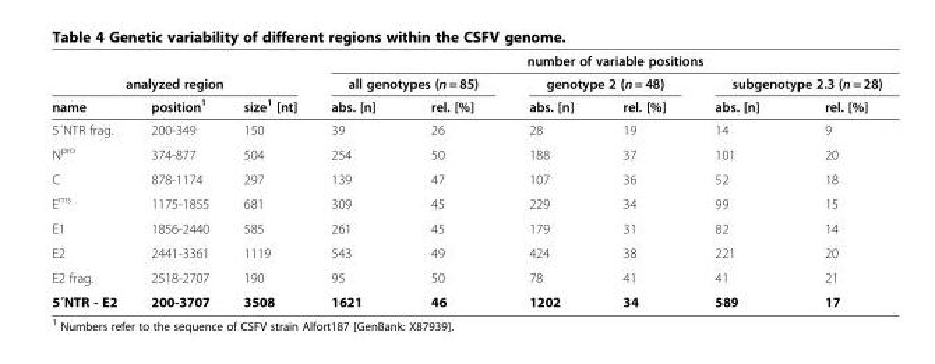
<table><thead><tr><td></td><td></td><td></td><td colspan="6">number of variable positions</td></tr><tr><td colspan="3">analyzed region</td><td colspan="2">all genotypes (n = 85)</td><td colspan="2">genotype 2 (n = 48)</td><td colspan="2">subgenotype 2.3 (n = 28)</td></tr><tr><td>name</td><td>position<sup>1</sup></td><td>size<sup>1</sup> [nt]</td><td>abs. [n]</td><td>rel. [%]</td><td>abs. [n]</td><td>rel. [%]</td><td>abs. [n]</td><td>rel. [%]</td></tr></thead><tbody><tr><td>5´NTR frag.</td><td>200-349</td><td>150</td><td>39</td><td>26</td><td>28</td><td>19</td><td>14</td><td>9</td></tr><tr><td>N<sup>pro</sup></td><td>374-877</td><td>504</td><td>254</td><td>50</td><td>188</td><td>37</td><td>101</td><td>20</td></tr><tr><td>C</td><td>878-1174</td><td>297</td><td>139</td><td>47</td><td>107</td><td>36</td><td>52</td><td>18</td></tr><tr><td>E<sup>rns</sup></td><td>1175-1855</td><td>681</td><td>309</td><td>45</td><td>229</td><td>34</td><td>99</td><td>15</td></tr><tr><td>E1</td><td>1856-2440</td><td>585</td><td>261</td><td>45</td><td>179</td><td>31</td><td>82</td><td>14</td></tr><tr><td>E2</td><td>2441-3361</td><td>1119</td><td>543</td><td>49</td><td>424</td><td>38</td><td>221</td><td>20</td></tr><tr><td>E2 frag.</td><td>2518-2707</td><td>190</td><td>95</td><td>50</td><td>78</td><td>41</td><td>41</td><td>21</td></tr><tr><td>5´NTR - E2</td><td>200-3707</td><td>3508</td><td>1621</td><td>46</td><td>1202</td><td>34</td><td>589</td><td>17</td></tr></tbody></table>